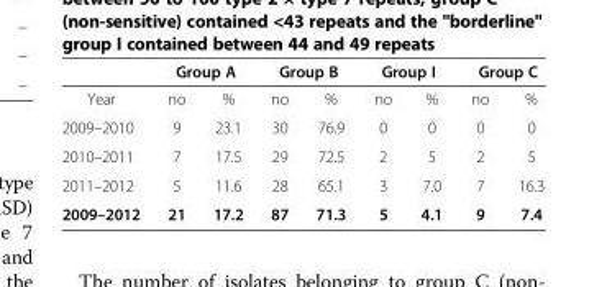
<table><thead><tr><td rowspan="2">Year</td><td colspan="2">Group A</td><td colspan="2">Group B</td><td colspan="2">Group I</td><td colspan="2">Group C</td></tr><tr><td>no</td><td>%</td><td>no</td><td>%</td><td>no</td><td>%</td><td>no</td><td>%</td></tr></thead><tbody><tr><td>2009–2010</td><td>9</td><td>23.1</td><td>30</td><td>76.9</td><td>0</td><td>0</td><td>0</td><td>0</td></tr><tr><td>2010–2011</td><td>7</td><td>17.5</td><td>29</td><td>72.5</td><td>2</td><td>5</td><td>2</td><td>5</td></tr><tr><td>2011–2012</td><td>5</td><td>11.6</td><td>28</td><td>65.1</td><td>3</td><td>7.0</td><td>7</td><td>16.3</td></tr><tr><td>2009–2012</td><td>21</td><td>17.2</td><td>87</td><td>71.3</td><td>5</td><td>4.1</td><td>9</td><td>7.4</td></tr></tbody></table>